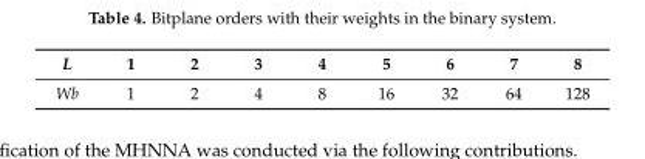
<table><thead><tr><td>L</td><td>1</td><td>2</td><td>3</td><td>4</td><td>5</td><td>6</td><td>7</td><td>8</td></tr></thead><tbody><tr><td>Wb</td><td>1</td><td>2</td><td>4</td><td>8</td><td>16</td><td>32</td><td>64</td><td>128</td></tr></tbody></table>